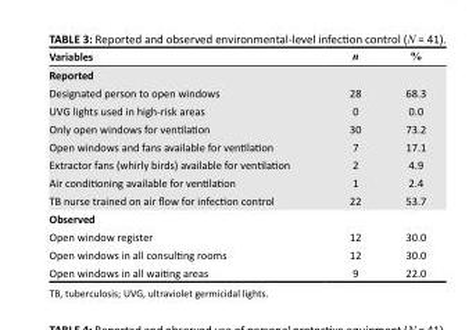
<table><thead><tr><td>Variables</td><td>n</td><td>%</td></tr></thead><tbody><tr><td colspan="3">Reported</td></tr><tr><td>Designated person to open windows</td><td>28</td><td>68.3</td></tr><tr><td>UVG lights used in high-risk areas</td><td>0</td><td>0.0</td></tr><tr><td>Only open windows for ventilation</td><td>30</td><td>73.2</td></tr><tr><td>Open windows and fans available for ventilation</td><td>7</td><td>17.1</td></tr><tr><td>Extractor fans (whirly birds) available for ventilation</td><td>2</td><td>4.9</td></tr><tr><td>Air conditioning available for ventilation</td><td>1</td><td>2.4</td></tr><tr><td>TB nurse trained on air flow for infection control</td><td>22</td><td>53.7</td></tr><tr><td colspan="3">Observed</td></tr><tr><td>Open window register</td><td>12</td><td>30.0</td></tr><tr><td>Open windows in all consulting rooms</td><td>12</td><td>30.0</td></tr><tr><td>Open windows in all waiting areas</td><td>9</td><td>22.0</td></tr></tbody></table>